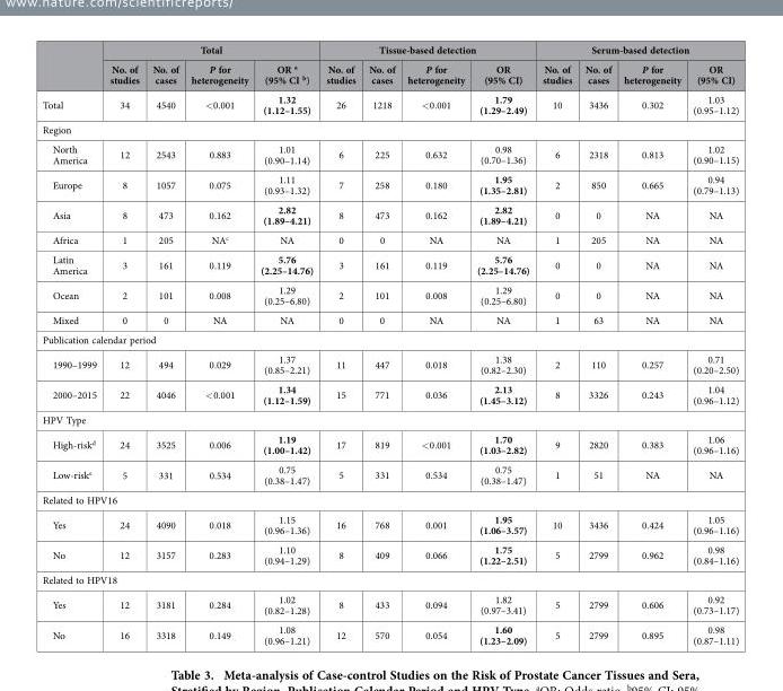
<table><thead><tr><td rowspan="2"></td><td colspan="4">Total</td><td colspan="4">Tissue-based detection</td><td colspan="4">Serum-based detection</td></tr><tr><td>No. of studies</td><td>No. of cases</td><td>P for heterogeneity</td><td>OR a (95% CI b)</td><td>No. of studies</td><td>No. of cases</td><td>P for heterogeneity</td><td>OR (95% CI)</td><td>No. of studies</td><td>No. of cases</td><td>P for heterogeneity</td><td>OR (95% CI)</td></tr></thead><tbody><tr><td>Total</td><td>34</td><td>4540</td><td>&lt;0.001</td><td>1.32 (1.12–1.55)</td><td>26</td><td>1218</td><td>&lt;0.001</td><td>1.79 (1.29–2.49)</td><td>10</td><td>3436</td><td>0.302</td><td>1.03 (0.95–1.12)</td></tr><tr><td colspan="13">Region</td></tr><tr><td>North America</td><td>12</td><td>2543</td><td>0.883</td><td>1.01 (0.90–1.14)</td><td>6</td><td>225</td><td>0.632</td><td>0.98 (0.70–1.36)</td><td>6</td><td>2318</td><td>0.813</td><td>1.02 (0.90–1.15)</td></tr><tr><td>Europe</td><td>8</td><td>1057</td><td>0.075</td><td>1.11 (0.93–1.32)</td><td>7</td><td>258</td><td>0.180</td><td>1.95 (1.35–2.81)</td><td>2</td><td>850</td><td>0.665</td><td>0.94 (0.79–1.13)</td></tr><tr><td>Asia</td><td>8</td><td>473</td><td>0.162</td><td>2.82 (1.89–4.21)</td><td>8</td><td>473</td><td>0.162</td><td>2.82 (1.89–4.21)</td><td>0</td><td>0</td><td>NA</td><td>NA</td></tr><tr><td>Africa</td><td>1</td><td>205</td><td>NA<sup>c</sup></td><td>NA</td><td>0</td><td>0</td><td>NA</td><td>NA</td><td>1</td><td>205</td><td>NA</td><td>NA</td></tr><tr><td>Latin America</td><td>3</td><td>161</td><td>0.119</td><td>5.76 (2.25–14.76)</td><td>3</td><td>161</td><td>0.119</td><td>5.76 (2.25–14.76)</td><td>0</td><td>0</td><td>NA</td><td>NA</td></tr><tr><td>Ocean</td><td>2</td><td>101</td><td>0.008</td><td>1.29 (0.25–6.80)</td><td>2</td><td>101</td><td>0.008</td><td>1.29 (0.25–6.80)</td><td>0</td><td>0</td><td>NA</td><td>NA</td></tr><tr><td>Mixed</td><td>0</td><td>0</td><td>NA</td><td>NA</td><td>0</td><td>0</td><td>NA</td><td>NA</td><td>1</td><td>63</td><td>NA</td><td>NA</td></tr><tr><td colspan="13">Publication calendar period</td></tr><tr><td>1990–1999</td><td>12</td><td>494</td><td>0.029</td><td>1.37 (0.85–2.21)</td><td>11</td><td>447</td><td>0.018</td><td>1.38 (0.82–2.30)</td><td>2</td><td>110</td><td>0.257</td><td>0.71 (0.20–2.50)</td></tr><tr><td>2000–2015</td><td>22</td><td>4046</td><td>&lt; 0.001</td><td>1.34 (1.12–1.59)</td><td>15</td><td>771</td><td>0.036</td><td>2.13 (1.45–3.12)</td><td>8</td><td>3326</td><td>0.243</td><td>1.04 (0.96–1.12)</td></tr><tr><td colspan="13">HPV Type</td></tr><tr><td>High-risk<sup>d</sup></td><td>24</td><td>3525</td><td>0.006</td><td>1.19 (1.00–1.42)</td><td>17</td><td>819</td><td>&lt;0.001</td><td>1.70 (1.03–2.82)</td><td>9</td><td>2820</td><td>0.383</td><td>1.06 (0.96–1.16)</td></tr><tr><td>Low-risk<sup>e</sup></td><td>5</td><td>331</td><td>0.534</td><td>0.75 (0.38–1.47)</td><td>5</td><td>331</td><td>0.534</td><td>0.75 (0.38–1.47)</td><td>1</td><td>51</td><td>NA</td><td>NA</td></tr><tr><td colspan="13">Related to HPV16</td></tr><tr><td>Yes</td><td>24</td><td>4090</td><td>0.018</td><td>1.15 (0.96–1.36)</td><td>16</td><td>768</td><td>0.001</td><td>1.95 (1.06–3.57)</td><td>10</td><td>3436</td><td>0.424</td><td>1.05 (0.96–1.16)</td></tr><tr><td>No</td><td>12</td><td>3157</td><td>0.283</td><td>1.10 (0.94–1.29)</td><td>8</td><td>409</td><td>0.066</td><td>1.75 (1.22–2.51)</td><td>5</td><td>2799</td><td>0.962</td><td>0.98 (0.84–1.16)</td></tr><tr><td colspan="13">Related to HPV18</td></tr><tr><td>Yes</td><td>12</td><td>3181</td><td>0.284</td><td>1.02 (0.82–1.28)</td><td>8</td><td>433</td><td>0.094</td><td>1.82 (0.97–3.41)</td><td>5</td><td>2799</td><td>0.606</td><td>0.92 (0.73–1.17)</td></tr><tr><td>No</td><td>16</td><td>3318</td><td>0.149</td><td>1.08 (0.96–1.21)</td><td>12</td><td>570</td><td>0.054</td><td>1.60 (1.23–2.09)</td><td>5</td><td>2799</td><td>0.895</td><td>0.98 (0.87–1.11)</td></tr></tbody></table>